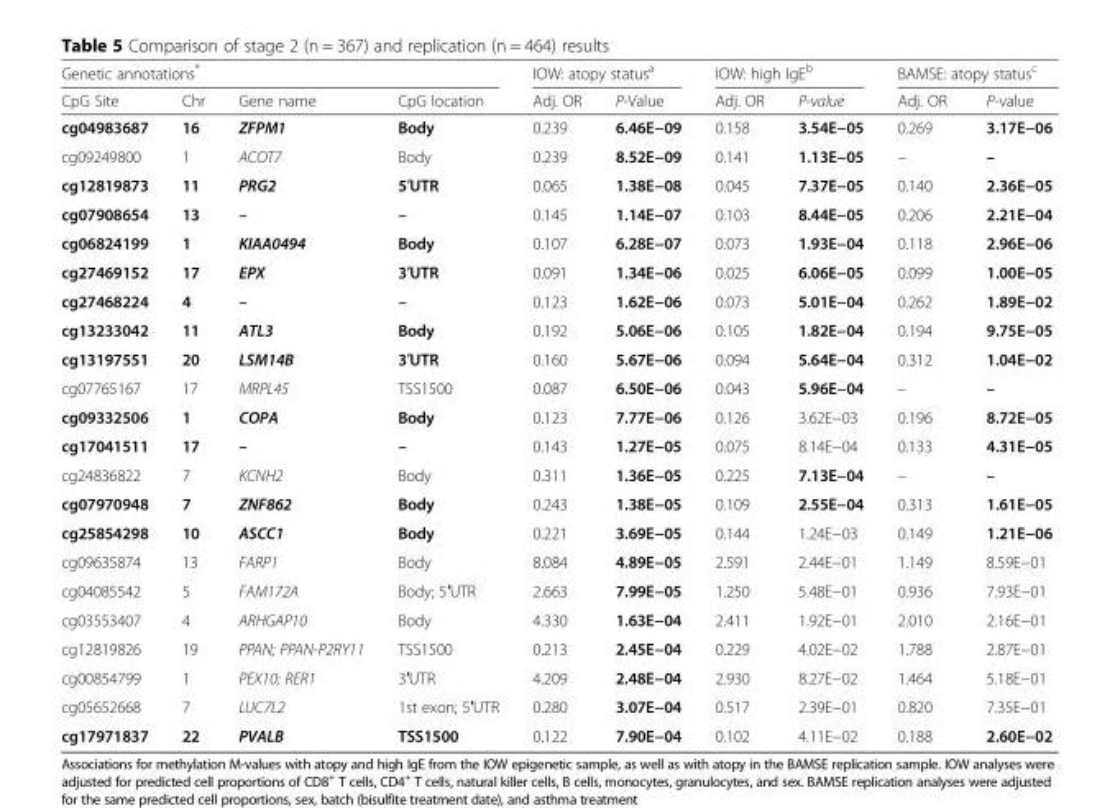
<table><thead><tr><td colspan="4">Genetic annotations*</td><td colspan="2">IOW: atopy status<sup>a</sup></td><td colspan="2">IOW: high IgE<sup>b</sup></td><td colspan="2">BAMSE: atopy status<sup>c</sup></td></tr><tr><td>CpG Site</td><td>Chr</td><td>Gene name</td><td>CpG location</td><td>Adj. OR</td><td>P-Value</td><td>Adj. OR</td><td>P-value</td><td>Adj. OR</td><td>P-value</td></tr></thead><tbody><tr><td>cg04983687</td><td>16</td><td>ZFPM1</td><td>Body</td><td>0.239</td><td>6.46E−09</td><td>0.158</td><td>3.54E−05</td><td>0.269</td><td>3.17E−06</td></tr><tr><td>cg09249800</td><td>1</td><td>ACOT7</td><td>Body</td><td>0.239</td><td>8.52E−09</td><td>0.141</td><td>1.13E−05</td><td>–</td><td>–</td></tr><tr><td>cg12819873</td><td>11</td><td>PRG2</td><td>5′UTR</td><td>0.065</td><td>1.38E−08</td><td>0.045</td><td>7.37E−05</td><td>0.140</td><td>2.36E−05</td></tr><tr><td>cg07908654</td><td>13</td><td>–</td><td>–</td><td>0.145</td><td>1.14E−07</td><td>0.103</td><td>8.44E−05</td><td>0.206</td><td>2.21E−04</td></tr><tr><td>cg06824199</td><td>1</td><td>KIAA0494</td><td>Body</td><td>0.107</td><td>6.28E−07</td><td>0.073</td><td>1.93E−04</td><td>0.118</td><td>2.96E−06</td></tr><tr><td>cg27469152</td><td>17</td><td>EPX</td><td>3′UTR</td><td>0.091</td><td>1.34E−06</td><td>0.025</td><td>6.06E−05</td><td>0.099</td><td>1.00E−05</td></tr><tr><td>cg27468224</td><td>4</td><td>–</td><td>–</td><td>0.123</td><td>1.62E−06</td><td>0.073</td><td>5.01E−04</td><td>0.262</td><td>1.89E−02</td></tr><tr><td>cg13233042</td><td>11</td><td>ATL3</td><td>Body</td><td>0.192</td><td>5.06E−06</td><td>0.105</td><td>1.82E−04</td><td>0.194</td><td>9.75E−05</td></tr><tr><td>cg13197551</td><td>20</td><td>LSM14B</td><td>3′UTR</td><td>0.160</td><td>5.67E−06</td><td>0.094</td><td>5.64E−04</td><td>0.312</td><td>1.04E−02</td></tr><tr><td>cg07765167</td><td>17</td><td>MRPL45</td><td>TSS1500</td><td>0.087</td><td>6.50E−06</td><td>0.043</td><td>5.96E−04</td><td>–</td><td>–</td></tr><tr><td>cg09332506</td><td>1</td><td>COPA</td><td>Body</td><td>0.123</td><td>7.77E−06</td><td>0.126</td><td>3.62E−03</td><td>0.196</td><td>8.72E−05</td></tr><tr><td>cg17041511</td><td>17</td><td>–</td><td>–</td><td>0.143</td><td>1.27E−05</td><td>0.075</td><td>8.14E−04</td><td>0.133</td><td>4.31E−05</td></tr><tr><td>cg24836822</td><td>7</td><td>KCNH2</td><td>Body</td><td>0.311</td><td>1.36E−05</td><td>0.225</td><td>7.13E−04</td><td>–</td><td>–</td></tr><tr><td>cg07970948</td><td>7</td><td>ZNF862</td><td>Body</td><td>0.243</td><td>1.38E−05</td><td>0.109</td><td>2.55E−04</td><td>0.313</td><td>1.61E−05</td></tr><tr><td>cg25854298</td><td>10</td><td>ASCC1</td><td>Body</td><td>0.221</td><td>3.69E−05</td><td>0.144</td><td>1.24E−03</td><td>0.149</td><td>1.21E−06</td></tr><tr><td>cg09635874</td><td>13</td><td>FARP1</td><td>Body</td><td>8.084</td><td>4.89E−05</td><td>2.591</td><td>2.44E−01</td><td>1.149</td><td>8.59E−01</td></tr><tr><td>cg04085542</td><td>5</td><td>FAM172A</td><td>Body; 5′UTR</td><td>2.663</td><td>7.99E−05</td><td>1.250</td><td>5.48E−01</td><td>0.936</td><td>7.93E−01</td></tr><tr><td>cg03553407</td><td>4</td><td>ARHGAP10</td><td>Body</td><td>4.330</td><td>1.63E−04</td><td>2.411</td><td>1.92E−01</td><td>2.010</td><td>2.16E−01</td></tr><tr><td>cg12819826</td><td>19</td><td>PPAN; PPAN-P2RY11</td><td>TSS1500</td><td>0.213</td><td>2.45E−04</td><td>0.229</td><td>4.02E−02</td><td>1.788</td><td>2.87E−01</td></tr><tr><td>cg00854799</td><td>1</td><td>PEX10; RER1</td><td>3′UTR</td><td>4.209</td><td>2.48E−04</td><td>2.930</td><td>8.27E−02</td><td>1.464</td><td>5.18E−01</td></tr><tr><td>cg05652668</td><td>7</td><td>LUC7L2</td><td>1st exon; 5′UTR</td><td>0.280</td><td>3.07E−04</td><td>0.517</td><td>2.39E−01</td><td>0.820</td><td>7.35E−01</td></tr><tr><td>cg17971837</td><td>22</td><td>PVALB</td><td>TSS1500</td><td>0.122</td><td>7.90E−04</td><td>0.102</td><td>4.11E−02</td><td>0.188</td><td>2.60E−02</td></tr></tbody></table>